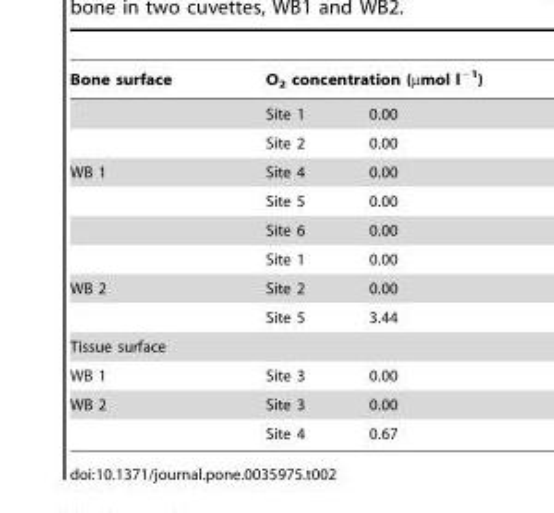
<table><thead><tr><td rowspan="2">Bone surface</td><td colspan="2">O<sub>2</sub> concentration (µmol l<sup>−1</sup>)</td></tr><tr><td>Site 1</td><td>0.00</td></tr></thead><tbody><tr><td></td><td>Site 2</td><td>0.00</td></tr><tr><td rowspan="4">WB 1</td><td>Site 4</td><td>0.00</td></tr><tr><td>Site 5</td><td>0.00</td></tr><tr><td>Site 6</td><td>0.00</td></tr><tr><td>Site 1</td><td>0.00</td></tr><tr><td rowspan="2">WB 2</td><td>Site 2</td><td>0.00</td></tr><tr><td>Site 5</td><td>3.44</td></tr><tr><td colspan="3">Tissue surface</td></tr><tr><td>WB 1</td><td>Site 3</td><td>0.00</td></tr><tr><td rowspan="2">WB 2</td><td>Site 3</td><td>0.00</td></tr><tr><td>Site 4</td><td>0.67</td></tr></tbody></table>